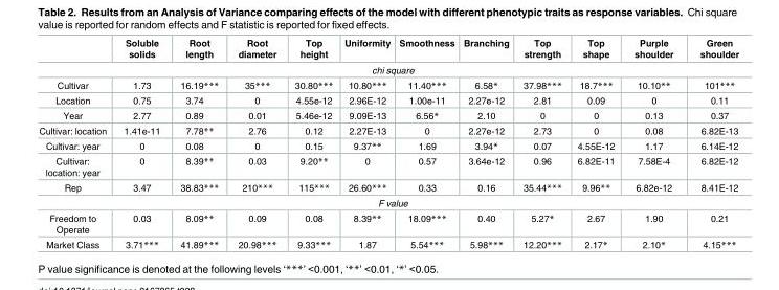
<table><thead><tr><td></td><td>Soluble solids</td><td>Root length</td><td>Root diameter</td><td>Top height</td><td>Uniformity</td><td>Smoothness</td><td>Branching</td><td>Top strength</td><td>Top shape</td><td>Purple shoulder</td><td>Green shoulder</td></tr></thead><tbody><tr><td colspan="12">chi square</td></tr><tr><td>Cultivar</td><td>1.73</td><td>16.19***</td><td>35***</td><td>30.80***</td><td>10.80***</td><td>11.40***</td><td>6.58*</td><td>37.98***</td><td>18.7***</td><td>10.10**</td><td>101***</td></tr><tr><td>Location</td><td>0.75</td><td>3.74</td><td>0</td><td>4.55e-12</td><td>2.96E-12</td><td>1.00e-11</td><td>2.27e-12</td><td>2.81</td><td>0.09</td><td>0</td><td>0.11</td></tr><tr><td>Year</td><td>2.77</td><td>0.89</td><td>0.01</td><td>5.46e-12</td><td>9.09E-13</td><td>6.56*</td><td>2.10</td><td>0</td><td>0</td><td>0.13</td><td>0.37</td></tr><tr><td>Cultivar: location</td><td>1.41e-11</td><td>7.78**</td><td>2.76</td><td>0.12</td><td>2.27E-13</td><td>0</td><td>2.27e-12</td><td>2.73</td><td>0</td><td>0.08</td><td>6.82E-13</td></tr><tr><td>Cultivar: year</td><td>0</td><td>0.08</td><td>0</td><td>0.15</td><td>9.37**</td><td>1.69</td><td>3.94*</td><td>0.07</td><td>4.55E-12</td><td>1.17</td><td>6.14E-12</td></tr><tr><td>Cultivar: location: year</td><td>0</td><td>8.39**</td><td>0.03</td><td>9.20**</td><td>0</td><td>0.57</td><td>3.64e-12</td><td>0.96</td><td>6.82E-11</td><td>7.58E-4</td><td>6.82E-12</td></tr><tr><td>Rep</td><td>3.47</td><td>38.83***</td><td>210***</td><td>115***</td><td>26.60***</td><td>0.33</td><td>0.16</td><td>35.44***</td><td>9.96**</td><td>6.82e-12</td><td>8.41E-12</td></tr><tr><td colspan="12">F value</td></tr><tr><td>Freedom to Operate</td><td>0.03</td><td>8.09**</td><td>0.09</td><td>0.08</td><td>8.39**</td><td>18.09***</td><td>0.40</td><td>5.27*</td><td>2.67</td><td>1.90</td><td>0.21</td></tr><tr><td>Market Class</td><td>3.71***</td><td>41.89***</td><td>20.98***</td><td>9.33***</td><td>1.87</td><td>5.54***</td><td>5.98***</td><td>12.20***</td><td>2.17*</td><td>2.10*</td><td>4.15***</td></tr></tbody></table>